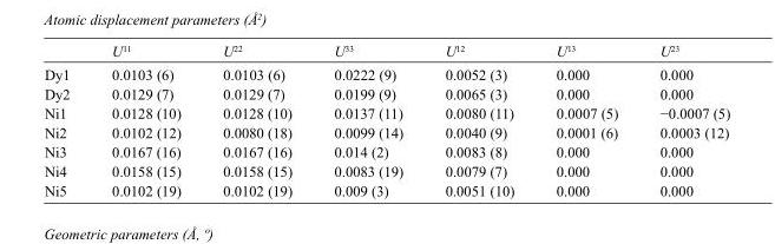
<table><thead><tr><td></td><td>U<sup>11</sup></td><td>U<sup>22</sup></td><td>U<sup>33</sup></td><td>U<sup>12</sup></td><td>U<sup>13</sup></td><td>U<sup>23</sup></td></tr></thead><tbody><tr><td>Dy1</td><td>0.0103 (6)</td><td>0.0103 (6)</td><td>0.0222 (9)</td><td>0.0052 (3)</td><td>0.000</td><td>0.000</td></tr><tr><td>Dy2</td><td>0.0129 (7)</td><td>0.0129 (7)</td><td>0.0199 (9)</td><td>0.0065 (3)</td><td>0.000</td><td>0.000</td></tr><tr><td>Ni1</td><td>0.0128 (10)</td><td>0.0128 (10)</td><td>0.0137 (11)</td><td>0.0080 (11)</td><td>0.0007 (5)</td><td>−0.0007 (5)</td></tr><tr><td>Ni2</td><td>0.0102 (12)</td><td>0.0080 (18)</td><td>0.0099 (14)</td><td>0.0040 (9)</td><td>0.0001 (6)</td><td>0.0003 (12)</td></tr><tr><td>Ni3</td><td>0.0167 (16)</td><td>0.0167 (16)</td><td>0.014 (2)</td><td>0.0083 (8)</td><td>0.000</td><td>0.000</td></tr><tr><td>Ni4</td><td>0.0158 (15)</td><td>0.0158 (15)</td><td>0.0083 (19)</td><td>0.0079 (7)</td><td>0.000</td><td>0.000</td></tr><tr><td>Ni5</td><td>0.0102 (19)</td><td>0.0102 (19)</td><td>0.009 (3)</td><td>0.0051 (10)</td><td>0.000</td><td>0.000</td></tr></tbody></table>